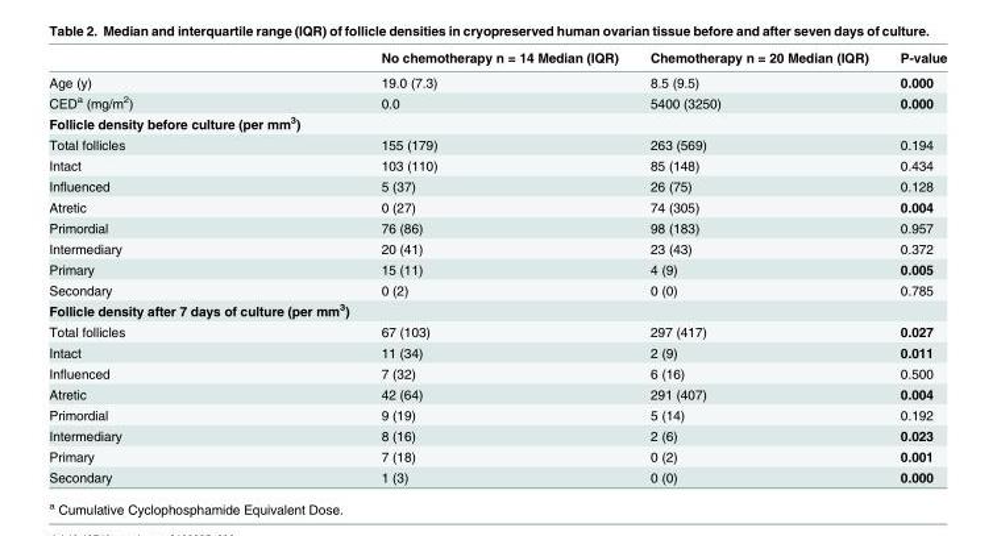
<table><thead><tr><td></td><td>No chemotherapy n = 14 Median (IQR)</td><td>Chemotherapy n = 20 Median (IQR)</td><td>P-value</td></tr></thead><tbody><tr><td>Age (y)</td><td>19.0 (7.3)</td><td>8.5 (9.5)</td><td>0.000</td></tr><tr><td>CED<sup>a</sup> (mg/m<sup>2</sup>)</td><td>0.0</td><td>5400 (3250)</td><td>0.000</td></tr><tr><td colspan="4">Follicle density before culture (per mm<sup>3</sup>)</td></tr><tr><td>Total follicles</td><td>155 (179)</td><td>263 (569)</td><td>0.194</td></tr><tr><td>Intact</td><td>103 (110)</td><td>85 (148)</td><td>0.434</td></tr><tr><td>Influenced</td><td>5 (37)</td><td>26 (75)</td><td>0.128</td></tr><tr><td>Atretic</td><td>0 (27)</td><td>74 (305)</td><td>0.004</td></tr><tr><td>Primordial</td><td>76 (86)</td><td>98 (183)</td><td>0.957</td></tr><tr><td>Intermediary</td><td>20 (41)</td><td>23 (43)</td><td>0.372</td></tr><tr><td>Primary</td><td>15 (11)</td><td>4 (9)</td><td>0.005</td></tr><tr><td>Secondary</td><td>0 (2)</td><td>0 (0)</td><td>0.785</td></tr><tr><td colspan="4">Follicle density after 7 days of culture (per mm<sup>3</sup>)</td></tr><tr><td>Total follicles</td><td>67 (103)</td><td>297 (417)</td><td>0.027</td></tr><tr><td>Intact</td><td>11 (34)</td><td>2 (9)</td><td>0.011</td></tr><tr><td>Influenced</td><td>7 (32)</td><td>6 (16)</td><td>0.500</td></tr><tr><td>Atretic</td><td>42 (64)</td><td>291 (407)</td><td>0.004</td></tr><tr><td>Primordial</td><td>9 (19)</td><td>5 (14)</td><td>0.192</td></tr><tr><td>Intermediary</td><td>8 (16)</td><td>2 (6)</td><td>0.023</td></tr><tr><td>Primary</td><td>7 (18)</td><td>0 (2)</td><td>0.001</td></tr><tr><td>Secondary</td><td>1 (3)</td><td>0 (0)</td><td>0.000</td></tr></tbody></table>